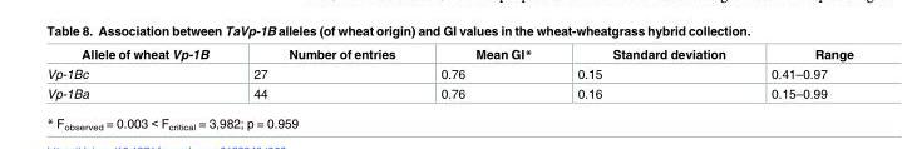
<table><thead><tr><td>Allele of wheat Vp-1B</td><td>Number of entries</td><td>Mean GI*</td><td>Standard deviation</td><td>Range</td></tr></thead><tbody><tr><td>Vp-1Bc</td><td>27</td><td>0.76</td><td>0.15</td><td>0.41–0.97</td></tr><tr><td>Vp-1Ba</td><td>44</td><td>0.76</td><td>0.16</td><td>0.15–0.99</td></tr></tbody></table>